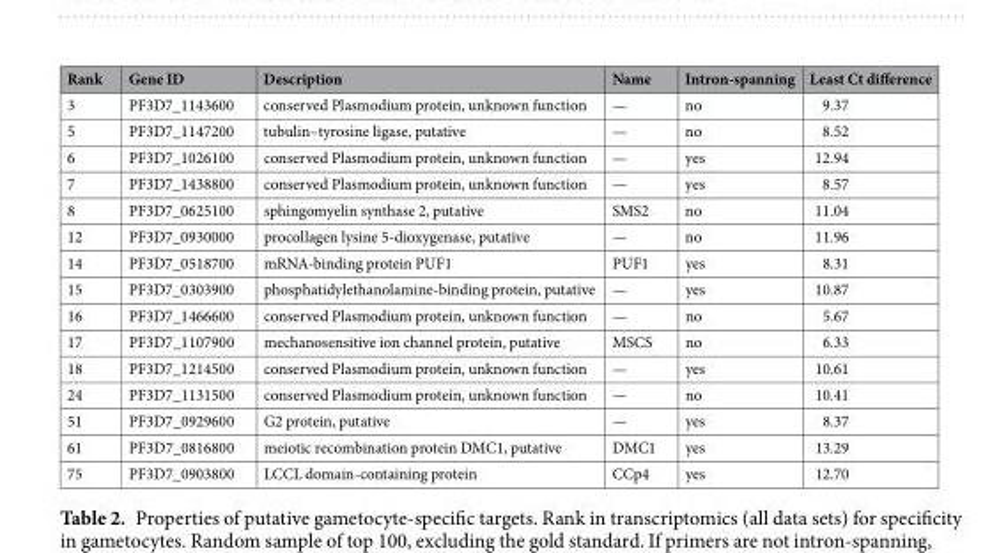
<table><thead><tr><td>Rank</td><td>Gene ID</td><td>Description</td><td>Name</td><td>Intron-spanning</td><td>Least Ct difference</td></tr></thead><tbody><tr><td>3</td><td>PF3D7_1143600</td><td>conserved Plasmodium protein, unknown function</td><td>—</td><td>no</td><td>9.37</td></tr><tr><td>5</td><td>PF3D7_1147200</td><td>tubulin–tyrosine ligase, putative</td><td>—</td><td>no</td><td>8.52</td></tr><tr><td>6</td><td>PF3D7_1026100</td><td>conserved Plasmodium protein, unknown function</td><td>—</td><td>yes</td><td>12.94</td></tr><tr><td>7</td><td>PF3D7_1438800</td><td>conserved Plasmodium protein, unknown function</td><td>—</td><td>yes</td><td>8.57</td></tr><tr><td>8</td><td>PF3D7_0625100</td><td>sphingomyelin synthase 2, putative</td><td>SMS2</td><td>no</td><td>11.04</td></tr><tr><td>12</td><td>PF3D7_0930000</td><td>procollagen lysine 5-dioxygenase, putative</td><td>—</td><td>no</td><td>11.96</td></tr><tr><td>14</td><td>PF3D7_0518700</td><td>mRNA-binding protein PUF1</td><td>PUF1</td><td>yes</td><td>8.31</td></tr><tr><td>15</td><td>PF3D7_0303900</td><td>phosphatidylethanolamine-binding protein, putative</td><td>—</td><td>yes</td><td>10.87</td></tr><tr><td>16</td><td>PF3D7_1466600</td><td>conserved Plasmodium protein, unknown function</td><td>—</td><td>no</td><td>5.67</td></tr><tr><td>17</td><td>PF3D7_1107900</td><td>mechanosensitive ion channel protein, putative</td><td>MSCS</td><td>no</td><td>6.33</td></tr><tr><td>18</td><td>PF3D7_1214500</td><td>conserved Plasmodium protein, unknown function</td><td>—</td><td>yes</td><td>10.61</td></tr><tr><td>24</td><td>PF3D7_1131500</td><td>conserved Plasmodium protein, unknown function</td><td>—</td><td>no</td><td>10.41</td></tr><tr><td>51</td><td>PF3D7_0929600</td><td>G2 protein, putative</td><td>—</td><td>yes</td><td>8.37</td></tr><tr><td>61</td><td>PF3D7_0816800</td><td>meiotic recombination protein DMC1, putative</td><td>DMC1</td><td>yes</td><td>13.29</td></tr><tr><td>75</td><td>PF3D7_0903800</td><td>LCCL domain-containing protein</td><td>CCp4</td><td>yes</td><td>12.70</td></tr></tbody></table>